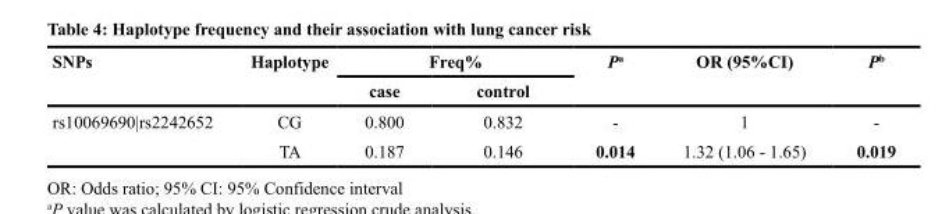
<table><thead><tr><td rowspan="2">SNPs</td><td rowspan="2">Haplotype</td><td colspan="2">Freq%</td><td rowspan="2">P<sup>a</sup></td><td rowspan="2">OR (95%CI)</td><td rowspan="2">P<sup>b</sup></td></tr><tr><td>case</td><td>control</td></tr></thead><tbody><tr><td rowspan="2">rs10069690|rs2242652</td><td>CG</td><td>0.800</td><td>0.832</td><td>-</td><td>1</td><td>-</td></tr><tr><td>TA</td><td>0.187</td><td>0.146</td><td>0.014</td><td>1.32 (1.06 - 1.65)</td><td>0.019</td></tr></tbody></table>